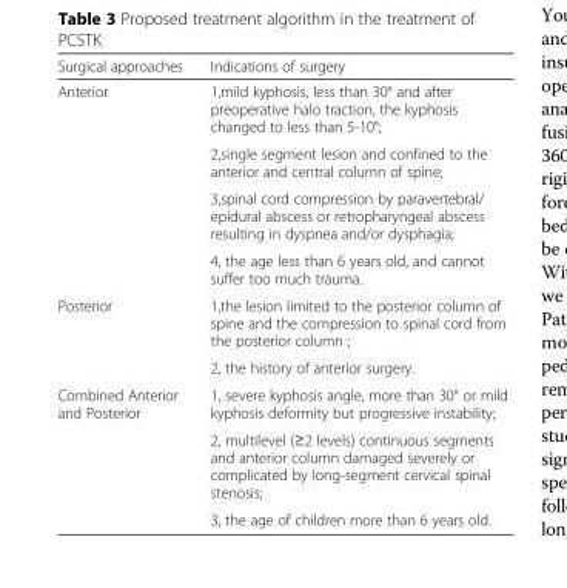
<table><thead><tr><td>Surgical approaches</td><td>Indications of surgery</td></tr></thead><tbody><tr><td rowspan="4">Anterior</td><td>1,mild kyphosis, less than 30° and after preoperative halo traction, the kyphosis changed to less than 5-10°;</td></tr><tr><td>2,single segment lesion and confined to the anterior and central column of spine;</td></tr><tr><td>3,spinal cord compression by paravertebral/ epidural abscess or retropharyngeal abscess resulting in dyspnea and/or dysphagia;</td></tr><tr><td>4, the age less than 6 years old, and cannot suffer too much trauma.</td></tr><tr><td rowspan="2">Posterior</td><td>1,the lesion limited to the posterior column of spine and the compression to spinal cord from the posterior column ;</td></tr><tr><td>2, the history of anterior surgery.</td></tr><tr><td rowspan="3">Combined Anterior and Posterior</td><td>1, severe kyphosis angle, more than 30° or mild kyphosis deformity but progressive instability;</td></tr><tr><td>2, multilevel (≥2 levels) continuous segments and anterior column damaged severely or complicated by long-segment cervical spinal stenosis;</td></tr><tr><td>3, the age of children more than 6 years old.</td></tr></tbody></table>